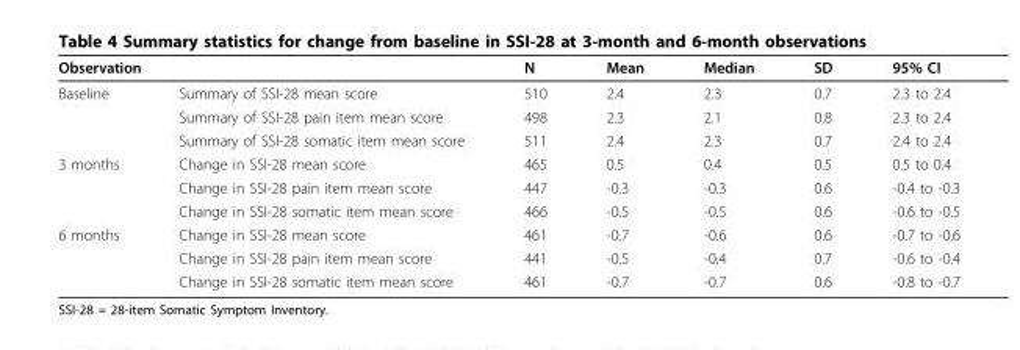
<table><thead><tr><td colspan="2">Observation</td><td rowspan="2">N 510</td><td rowspan="2">Mean 2.4</td><td rowspan="2">Median 2.3</td><td rowspan="2">SD 0.7</td><td rowspan="2">95% CI 2.3 to 2.4</td></tr><tr><td>Baseline</td><td>Summary of SSI-28 mean score</td></tr></thead><tbody><tr><td></td><td>Summary of SSI-28 pain item mean score</td><td>498</td><td>2.3</td><td>2.1</td><td>0.8</td><td>2.3 to 2.4</td></tr><tr><td></td><td>Summary of SSI-28 somatic item mean score</td><td>511</td><td>2.4</td><td>2.3</td><td>0.7</td><td>2.4 to 2.4</td></tr><tr><td rowspan="3">3 months</td><td>Change in SSI-28 mean score</td><td>465</td><td>0.5</td><td>0.4</td><td>0.5</td><td>0.5 to 0.4</td></tr><tr><td>Change in SSI-28 pain item mean score</td><td>447</td><td>-0.3</td><td>-0.3</td><td>0.6</td><td>-0.4 to -0.3</td></tr><tr><td>Change in SSI-28 somatic item mean score</td><td>466</td><td>-0.5</td><td>-0.5</td><td>0.6</td><td>-0.6 to -0.5</td></tr><tr><td rowspan="3">6 months</td><td>Change in SSI-28 mean score</td><td>461</td><td>-0.7</td><td>-0.6</td><td>0.6</td><td>-0.7 to -0.6</td></tr><tr><td>Change in SSI-28 pain item mean score</td><td>441</td><td>-0.5</td><td>-0.4</td><td>0.7</td><td>-0.6 to -0.4</td></tr><tr><td>Change in SSI-28 somatic item mean score</td><td>461</td><td>-0.7</td><td>-0.7</td><td>0.6</td><td>-0.8 to -0.7</td></tr></tbody></table>